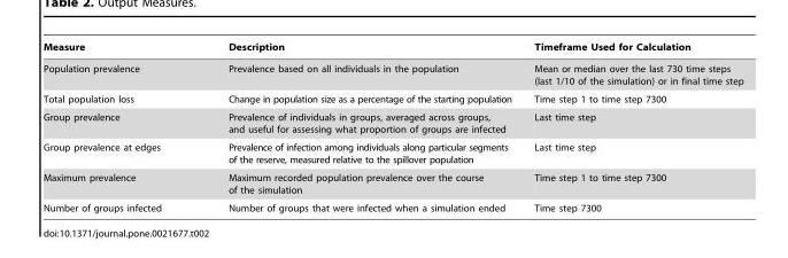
<table><thead><tr><td>Measure</td><td>Description</td><td>Timeframe Used for Calculation</td></tr></thead><tbody><tr><td>Population prevalence</td><td>Prevalence based on all individuals in the population</td><td>Mean or median over the last 730 time steps (last 1/10 of the simulation) or in final time step</td></tr><tr><td>Total population loss</td><td>Change in population size as a percentage of the starting population</td><td>Time step 1 to time step 7300</td></tr><tr><td>Group prevalence</td><td>Prevalence of individuals in groups, averaged across groups, and useful for assessing what proportion of groups are infected</td><td>Last time step</td></tr><tr><td>Group prevalence at edges</td><td>Prevalence of infection among individuals along particular segments of the reserve, measured relative to the spillover population</td><td>Last time step</td></tr><tr><td>Maximum prevalence</td><td>Maximum recorded population prevalence over the course of the simulation</td><td>Time step 1 to time step 7300</td></tr><tr><td>Number of groups infected</td><td>Number of groups that were infected when a simulation ended</td><td>Time step 7300</td></tr></tbody></table>